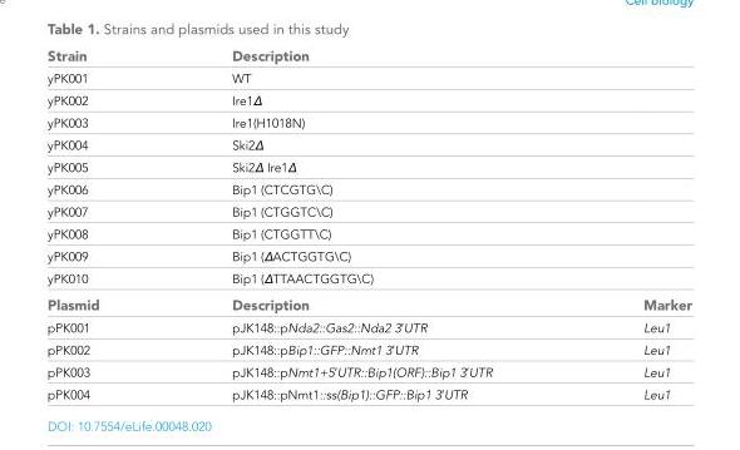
<table><tbody><tr><td>Strain</td><td>Description</td><td></td></tr><tr><td>yPK001</td><td>WT</td><td></td></tr><tr><td>yPK002</td><td>Ire1Δ</td><td></td></tr><tr><td>yPK003</td><td>Ire1(H1018N)</td><td></td></tr><tr><td>yPK004</td><td>Ski2Δ</td><td></td></tr><tr><td>yPK005</td><td>Ski2Δ Ire1Δ</td><td></td></tr><tr><td>yPK006</td><td>Bip1 (CTCGTG\C)</td><td></td></tr><tr><td>yPK007</td><td>Bip1 (CTGGTC\C)</td><td></td></tr><tr><td>yPK008</td><td>Bip1 (CTGGTT\C)</td><td></td></tr><tr><td>yPK009</td><td>Bip1 (ΔACTGGTG\C)</td><td></td></tr><tr><td>yPK010</td><td>Bip1 (ΔTTAACTGGTG\C)</td><td></td></tr><tr><td>Plasmid</td><td>Description</td><td>Marker</td></tr><tr><td>pPK001</td><td>pJK148::pNda2::Gas2::Nda2 3′UTR</td><td>Leu1</td></tr><tr><td>pPK002</td><td>pJK148::pBip1::GFP::Nmt1 3′UTR</td><td>Leu1</td></tr><tr><td>pPK003</td><td>pJK148::pNmt1+5′UTR::Bip1(ORF)::Bip1 3′UTR</td><td>Leu1</td></tr><tr><td>pPK004</td><td>pJK148::pNmt1::ss(Bip1)::GFP::Bip1 3′UTR</td><td>Leu1</td></tr></tbody></table>